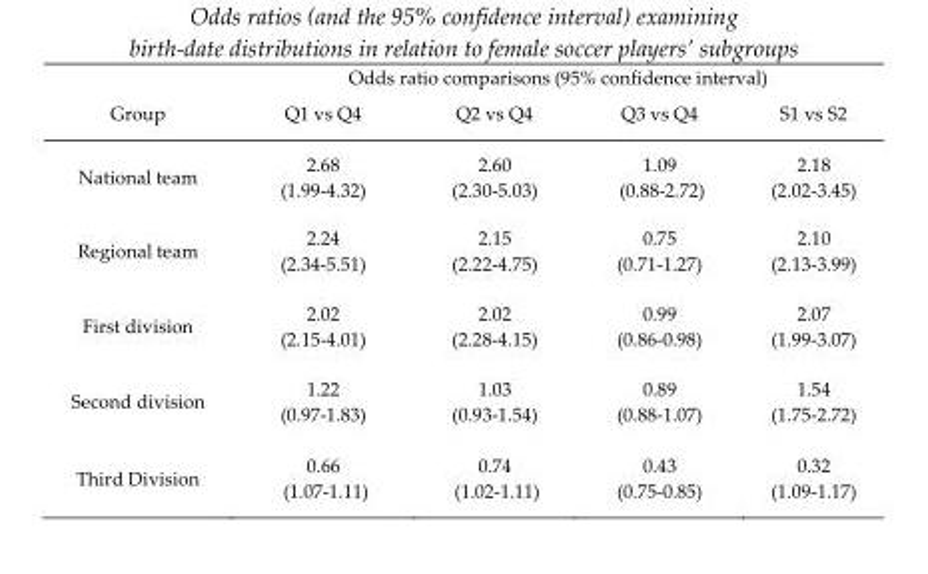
<table><thead><tr><td rowspan="2">Group</td><td colspan="4">Odds ratio comparisons (95% confidence interval)</td></tr><tr><td>Q1 vs Q4</td><td>Q2 vs Q4</td><td>Q3 vs Q4</td><td>S1 vs S2</td></tr></thead><tbody><tr><td>National team</td><td>2.68 (1.99-4.32)</td><td>2.60 (2.30-5.03)</td><td>1.09 (0.88-2.72)</td><td>2.18 (2.02-3.45)</td></tr><tr><td>Regional team</td><td>2.24 (2.34-5.51)</td><td>2.15 (2.22-4.75)</td><td>0.75 (0.71-1.27)</td><td>2.10 (2.13-3.99)</td></tr><tr><td>First division</td><td>2.02 (2.15-4.01)</td><td>2.02 (2.28-4.15)</td><td>0.99 (0.86-0.98)</td><td>2.07 (1.99-3.07)</td></tr><tr><td>Second division</td><td>1.22 (0.97-1.83)</td><td>1.03 (0.93-1.54)</td><td>0.89 (0.88-1.07)</td><td>1.54 (1.75-2.72)</td></tr><tr><td>Third Division</td><td>0.66 (1.07-1.11)</td><td>0.74 (1.02-1.11)</td><td>0.43 (0.75-0.85)</td><td>0.32 (1.09-1.17)</td></tr></tbody></table>